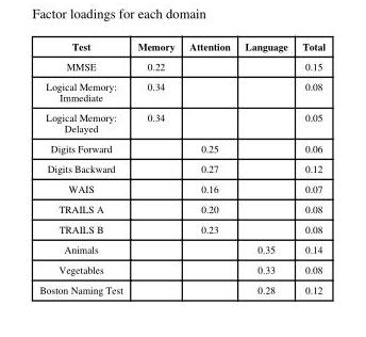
<table><thead><tr><td>Test</td><td>Memory</td><td>Attention</td><td>Language</td><td>Total</td></tr></thead><tbody><tr><td>MMSE</td><td>0.22</td><td></td><td></td><td>0.15</td></tr><tr><td>Logical Memory: Immediate</td><td>0.34</td><td></td><td></td><td>0.08</td></tr><tr><td>Logical Memory: Delayed</td><td>0.34</td><td></td><td></td><td>0.05</td></tr><tr><td>Digits Forward</td><td></td><td>0.25</td><td></td><td>0.06</td></tr><tr><td>Digits Backward</td><td></td><td>0.27</td><td></td><td>0.12</td></tr><tr><td>WAIS</td><td></td><td>0.16</td><td></td><td>0.07</td></tr><tr><td>TRAILS A</td><td></td><td>0.20</td><td></td><td>0.08</td></tr><tr><td>TRAILS B</td><td></td><td>0.23</td><td></td><td>0.08</td></tr><tr><td>Animals</td><td></td><td></td><td>0.35</td><td>0.14</td></tr><tr><td>Vegetables</td><td></td><td></td><td>0.33</td><td>0.08</td></tr><tr><td>Boston Naming Test</td><td></td><td></td><td>0.28</td><td>0.12</td></tr></tbody></table>